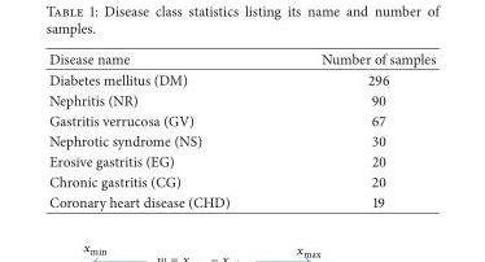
<table><thead><tr><td>Disease name</td><td>Number of samples</td></tr></thead><tbody><tr><td>Diabetes mellitus (DM)</td><td>296</td></tr><tr><td>Nephritis (NR)</td><td>90</td></tr><tr><td>Gastritis verrucosa (GV)</td><td>67</td></tr><tr><td>Nephrotic syndrome (NS)</td><td>30</td></tr><tr><td>Erosive gastritis (EG)</td><td>20</td></tr><tr><td>Chronic gastritis (CG)</td><td>20</td></tr><tr><td>Coronary heart disease (CHD)</td><td>19</td></tr></tbody></table>